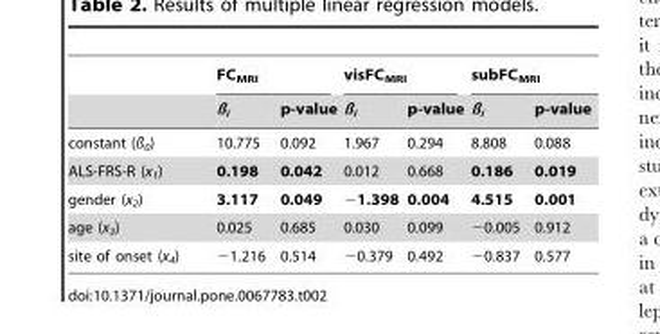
<table><thead><tr><td rowspan="2"></td><td colspan="2">FC<sub>MRI</sub></td><td colspan="2">visFC<sub>MRI</sub></td><td colspan="2">subFC<sub>MRI</sub></td></tr><tr><td>ß<sub>i</sub></td><td>p-value</td><td>ß<sub>i</sub></td><td>p-value</td><td>ß<sub>i</sub></td><td>p-value</td></tr></thead><tbody><tr><td>constant (ß<sub>0</sub>)</td><td>10.775</td><td>0.092</td><td>1.967</td><td>0.294</td><td>8.808</td><td>0.088</td></tr><tr><td>ALS-FRS-R (x<sub>1</sub>)</td><td>0.198</td><td>0.042</td><td>0.012</td><td>0.668</td><td>0.186</td><td>0.019</td></tr><tr><td>gender (x<sub>2</sub>)</td><td>3.117</td><td>0.049</td><td>−1.398</td><td>0.004</td><td>4.515</td><td>0.001</td></tr><tr><td>age (x<sub>3</sub>)</td><td>0.025</td><td>0.685</td><td>0.030</td><td>0.099</td><td>−0.005</td><td>0.912</td></tr><tr><td>site of onset (x<sub>4</sub>)</td><td>−1.216</td><td>0.514</td><td>−0.379</td><td>0.492</td><td>−0.837</td><td>0.577</td></tr></tbody></table>